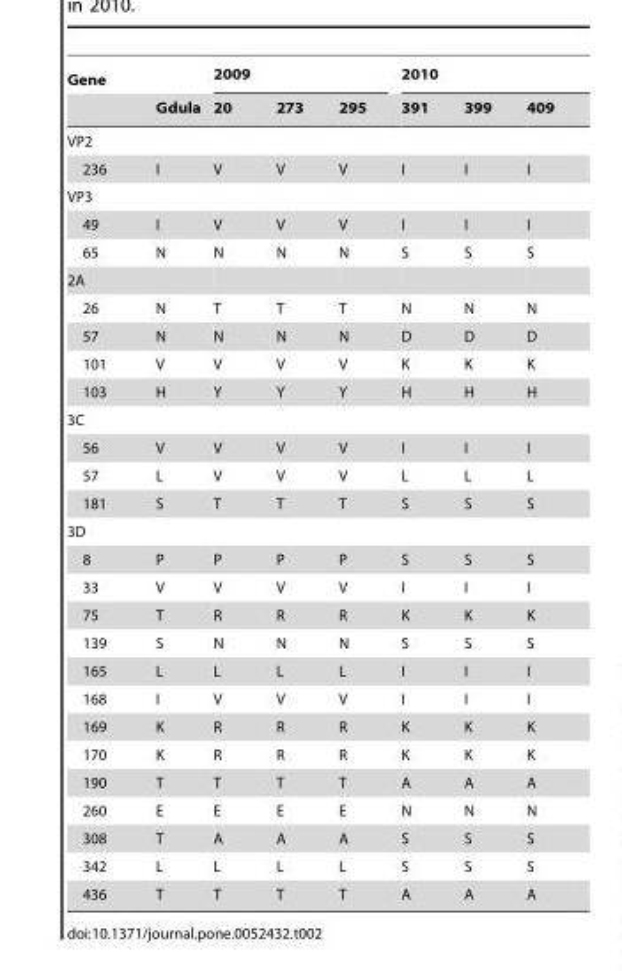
<table><thead><tr><td rowspan="2">Gene</td><td rowspan="2">Gdula</td><td colspan="3">2009</td><td colspan="3">2010</td></tr><tr><td>20</td><td>273</td><td>295</td><td>391</td><td>399</td><td>409</td></tr></thead><tbody><tr><td colspan="8">VP2</td></tr><tr><td>236</td><td>I</td><td>V</td><td>V</td><td>V</td><td>I</td><td>I</td><td>I</td></tr><tr><td colspan="8">VP3</td></tr><tr><td>49</td><td>I</td><td>V</td><td>V</td><td>V</td><td>I</td><td>I</td><td>I</td></tr><tr><td>65</td><td>N</td><td>N</td><td>N</td><td>N</td><td>S</td><td>S</td><td>S</td></tr><tr><td colspan="8">2A</td></tr><tr><td>26</td><td>N</td><td>T</td><td>T</td><td>T</td><td>N</td><td>N</td><td>N</td></tr><tr><td>57</td><td>N</td><td>N</td><td>N</td><td>N</td><td>D</td><td>D</td><td>D</td></tr><tr><td>101</td><td>V</td><td>V</td><td>V</td><td>V</td><td>K</td><td>K</td><td>K</td></tr><tr><td>103</td><td>H</td><td>Y</td><td>Y</td><td>Y</td><td>H</td><td>H</td><td>H</td></tr><tr><td colspan="8">3C</td></tr><tr><td>56</td><td>V</td><td>V</td><td>V</td><td>V</td><td>I</td><td>I</td><td>I</td></tr><tr><td>57</td><td>L</td><td>V</td><td>V</td><td>V</td><td>L</td><td>L</td><td>L</td></tr><tr><td>181</td><td>S</td><td>T</td><td>T</td><td>T</td><td>S</td><td>S</td><td>S</td></tr><tr><td colspan="8">3D</td></tr><tr><td>8</td><td>P</td><td>P</td><td>P</td><td>P</td><td>S</td><td>S</td><td>S</td></tr><tr><td>33</td><td>V</td><td>V</td><td>V</td><td>V</td><td>I</td><td>I</td><td>I</td></tr><tr><td>75</td><td>T</td><td>R</td><td>R</td><td>R</td><td>K</td><td>K</td><td>K</td></tr><tr><td>139</td><td>S</td><td>N</td><td>N</td><td>N</td><td>S</td><td>S</td><td>S</td></tr><tr><td>165</td><td>L</td><td>L</td><td>L</td><td>L</td><td>I</td><td>I</td><td>I</td></tr><tr><td>168</td><td>I</td><td>V</td><td>V</td><td>V</td><td>I</td><td>I</td><td>I</td></tr><tr><td>169</td><td>K</td><td>R</td><td>R</td><td>R</td><td>K</td><td>K</td><td>K</td></tr><tr><td>170</td><td>K</td><td>R</td><td>R</td><td>R</td><td>K</td><td>K</td><td>K</td></tr><tr><td>190</td><td>T</td><td>T</td><td>T</td><td>T</td><td>A</td><td>A</td><td>A</td></tr><tr><td>260</td><td>E</td><td>E</td><td>E</td><td>E</td><td>N</td><td>N</td><td>N</td></tr><tr><td>308</td><td>T</td><td>A</td><td>A</td><td>A</td><td>S</td><td>S</td><td>S</td></tr><tr><td>342</td><td>L</td><td>L</td><td>L</td><td>L</td><td>S</td><td>S</td><td>S</td></tr><tr><td>436</td><td>T</td><td>T</td><td>T</td><td>T</td><td>A</td><td>A</td><td>A</td></tr></tbody></table>